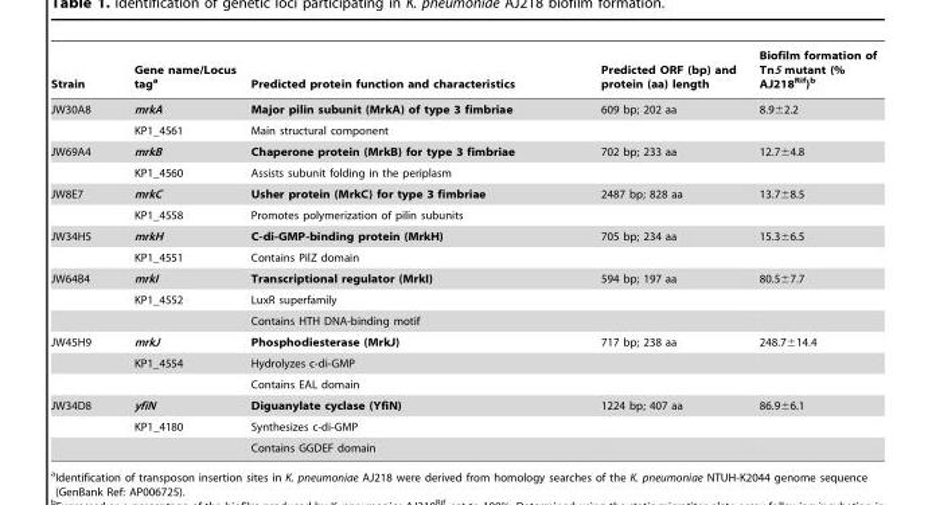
<table><thead><tr><td>Strain</td><td>Gene name/Locus tag<sup>a</sup></td><td>Predicted protein function and characteristics</td><td>Predicted ORF (bp) and protein (aa) length</td><td>Biofilm formation of Tn5 mutant (% AJ218<sup>Rif</sup>)<sup>b</sup></td></tr></thead><tbody><tr><td rowspan="2">JW30A8</td><td>mrkA</td><td>Major pilin subunit (MrkA) of type 3 fimbriae</td><td>609 bp; 202 aa</td><td>8.9±2.2</td></tr><tr><td>KP1_4561</td><td>Main structural component</td><td></td><td></td></tr><tr><td rowspan="2">JW69A4</td><td>mrkB</td><td>Chaperone protein (MrkB) for type 3 fimbriae</td><td>702 bp; 233 aa</td><td>12.7±4.8</td></tr><tr><td>KP1_4560</td><td>Assists subunit folding in the periplasm</td><td></td><td></td></tr><tr><td rowspan="2">JW8E7</td><td>mrkC</td><td>Usher protein (MrkC) for type 3 fimbriae</td><td>2487 bp; 828 aa</td><td>13.7±8.5</td></tr><tr><td>KP1_4558</td><td>Promotes polymerization of pilin subunits</td><td></td><td></td></tr><tr><td rowspan="2">JW34H5</td><td>mrkH</td><td>C-di-GMP-binding protein (MrkH)</td><td>705 bp; 234 aa</td><td>15.3±6.5</td></tr><tr><td>KP1_4551</td><td>Contains PilZ domain</td><td></td><td></td></tr><tr><td rowspan="3">JW64B4</td><td>mrkI</td><td>Transcriptional regulator (MrkI)</td><td>594 bp; 197 aa</td><td>80.5±7.7</td></tr><tr><td>KP1_4552</td><td>LuxR superfamily</td><td></td><td></td></tr><tr><td></td><td>Contains HTH DNA-binding motif</td><td></td><td></td></tr><tr><td rowspan="3">JW45H9</td><td>mrkJ</td><td>Phosphodiesterase (MrkJ)</td><td>717 bp; 238 aa</td><td>248.7±14.4</td></tr><tr><td>KP1_4554</td><td>Hydrolyzes c-di-GMP</td><td></td><td></td></tr><tr><td></td><td>Contains EAL domain</td><td></td><td></td></tr><tr><td rowspan="3">JW34D8</td><td>yfiN</td><td>Diguanylate cyclase (YfiN)</td><td>1224 bp; 407 aa</td><td>86.9±6.1</td></tr><tr><td>KP1_4180</td><td>Synthesizes c-di-GMP</td><td></td><td></td></tr><tr><td></td><td>Contains GGDEF domain</td><td></td><td></td></tr></tbody></table>